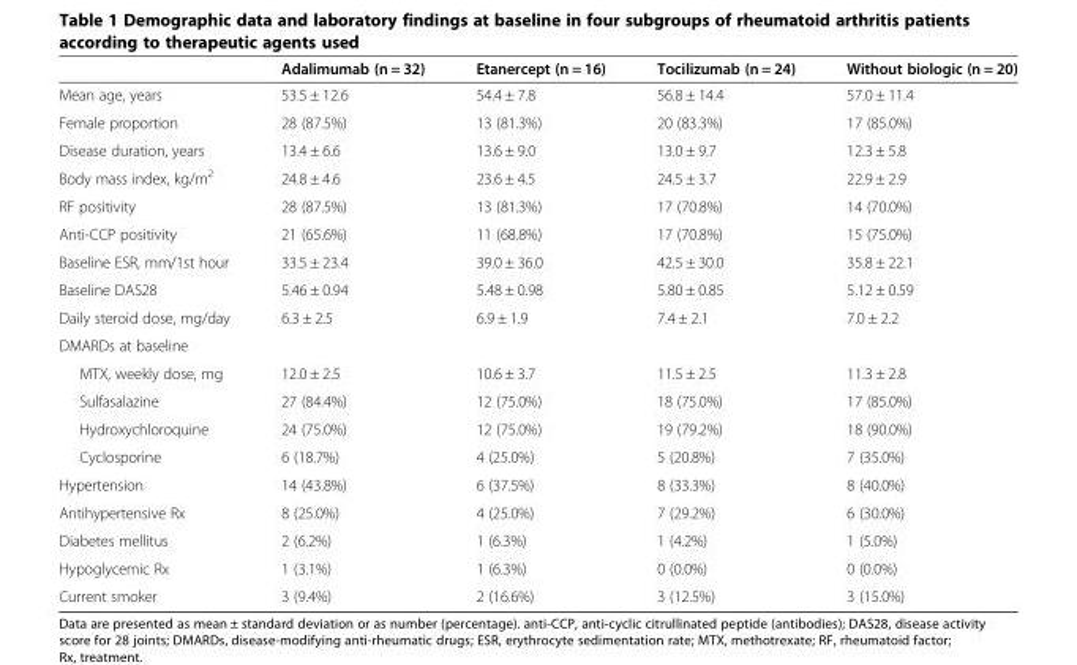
<table><thead><tr><td></td><td>Adalimumab (n = 32)</td><td>Etanercept (n = 16)</td><td>Tocilizumab (n = 24)</td><td>Without biologic (n = 20)</td></tr></thead><tbody><tr><td>Mean age, years</td><td>53.5 ± 12.6</td><td>54.4 ± 7.8</td><td>56.8 ± 14.4</td><td>57.0 ± 11.4</td></tr><tr><td>Female proportion</td><td>28 (87.5%)</td><td>13 (81.3%)</td><td>20 (83.3%)</td><td>17 (85.0%)</td></tr><tr><td>Disease duration, years</td><td>13.4 ± 6.6</td><td>13.6 ± 9.0</td><td>13.0 ± 9.7</td><td>12.3 ± 5.8</td></tr><tr><td>Body mass index, kg/m<sup>2</sup></td><td>24.8 ± 4.6</td><td>23.6 ± 4.5</td><td>24.5 ± 3.7</td><td>22.9 ± 2.9</td></tr><tr><td>RF positivity</td><td>28 (87.5%)</td><td>13 (81.3%)</td><td>17 (70.8%)</td><td>14 (70.0%)</td></tr><tr><td>Anti-CCP positivity</td><td>21 (65.6%)</td><td>11 (68.8%)</td><td>17 (70.8%)</td><td>15 (75.0%)</td></tr><tr><td>Baseline ESR, mm/1st hour</td><td>33.5 ± 23.4</td><td>39.0 ± 36.0</td><td>42.5 ± 30.0</td><td>35.8 ± 22.1</td></tr><tr><td>Baseline DAS28</td><td>5.46 ± 0.94</td><td>5.48 ± 0.98</td><td>5.80 ± 0.85</td><td>5.12 ± 0.59</td></tr><tr><td>Daily steroid dose, mg/day</td><td>6.3 ± 2.5</td><td>6.9 ± 1.9</td><td>7.4 ± 2.1</td><td>7.0 ± 2.2</td></tr><tr><td colspan="5">DMARDs at baseline</td></tr><tr><td>MTX, weekly dose, mg</td><td>12.0 ± 2.5</td><td>10.6 ± 3.7</td><td>11.5 ± 2.5</td><td>11.3 ± 2.8</td></tr><tr><td>Sulfasalazine</td><td>27 (84.4%)</td><td>12 (75.0%)</td><td>18 (75.0%)</td><td>17 (85.0%)</td></tr><tr><td>Hydroxychloroquine</td><td>24 (75.0%)</td><td>12 (75.0%)</td><td>19 (79.2%)</td><td>18 (90.0%)</td></tr><tr><td>Cyclosporine</td><td>6 (18.7%)</td><td>4 (25.0%)</td><td>5 (20.8%)</td><td>7 (35.0%)</td></tr><tr><td>Hypertension</td><td>14 (43.8%)</td><td>6 (37.5%)</td><td>8 (33.3%)</td><td>8 (40.0%)</td></tr><tr><td>Antihypertensive Rx</td><td>8 (25.0%)</td><td>4 (25.0%)</td><td>7 (29.2%)</td><td>6 (30.0%)</td></tr><tr><td>Diabetes mellitus</td><td>2 (6.2%)</td><td>1 (6.3%)</td><td>1 (4.2%)</td><td>1 (5.0%)</td></tr><tr><td>Hypoglycemic Rx</td><td>1 (3.1%)</td><td>1 (6.3%)</td><td>0 (0.0%)</td><td>0 (0.0%)</td></tr><tr><td>Current smoker</td><td>3 (9.4%)</td><td>2 (16.6%)</td><td>3 (12.5%)</td><td>3 (15.0%)</td></tr></tbody></table>